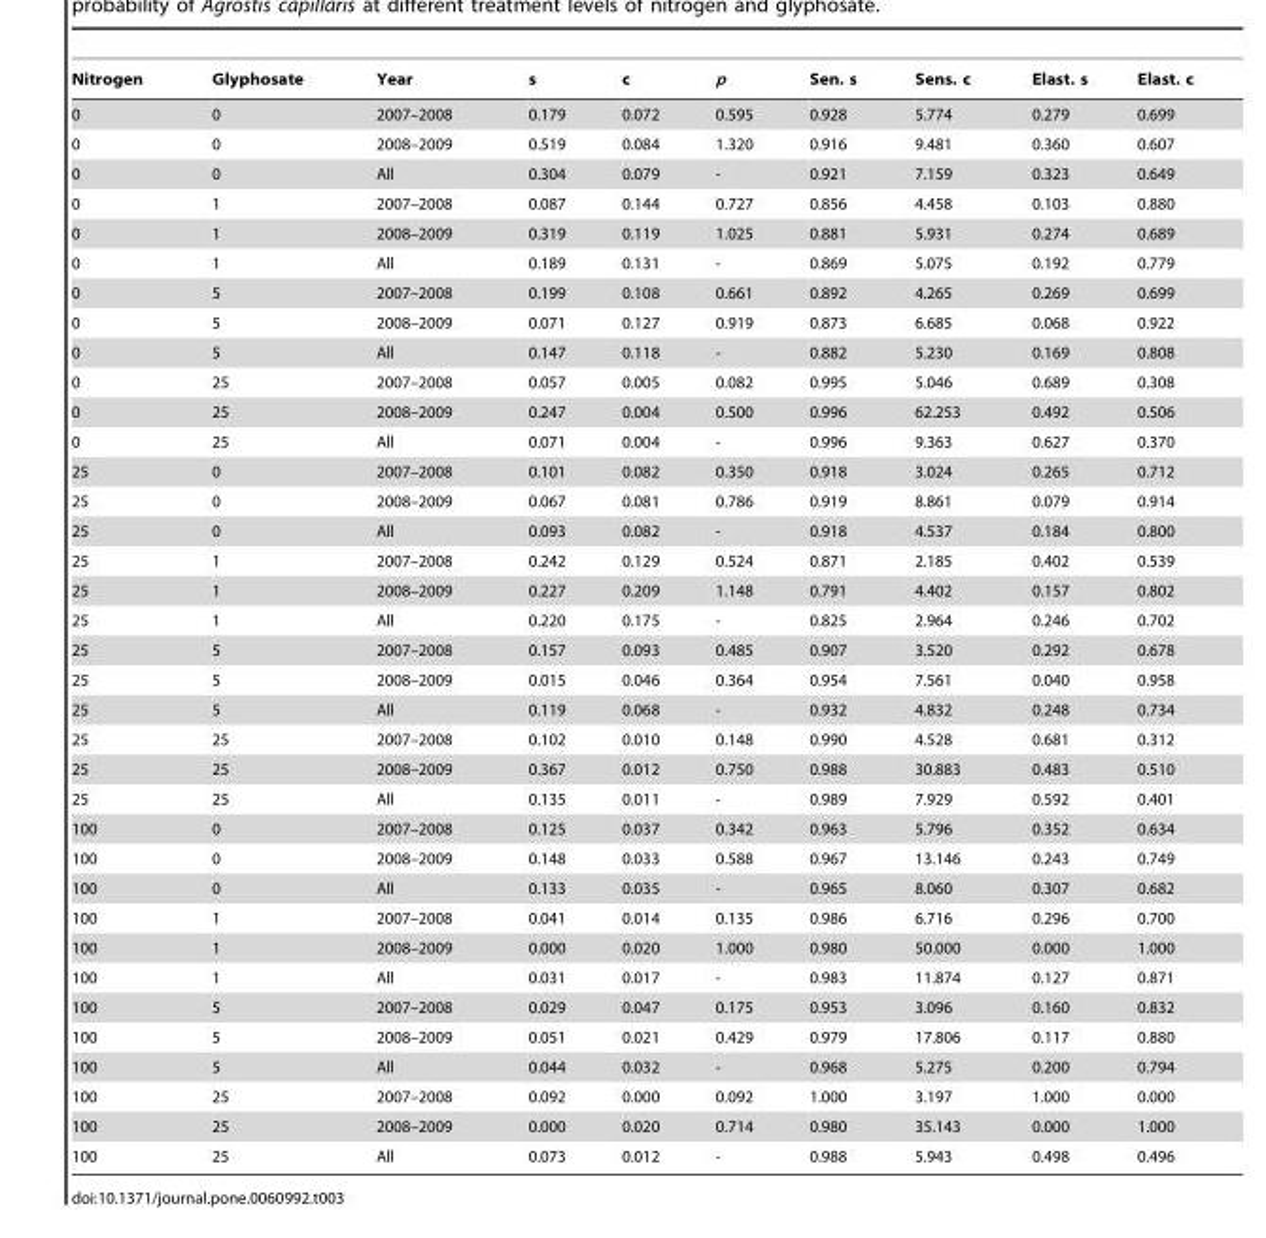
<table><thead><tr><td>Nitrogen</td><td>Glyphosate</td><td>Year</td><td>s</td><td>c</td><td>p</td><td>Sen. s</td><td>Sens. c</td><td>Elast. s</td><td>Elast. c</td></tr></thead><tbody><tr><td>0</td><td>0</td><td>2007–2008</td><td>0.179</td><td>0.072</td><td>0.595</td><td>0.928</td><td>5.774</td><td>0.279</td><td>0.699</td></tr><tr><td>0</td><td>0</td><td>2008–2009</td><td>0.519</td><td>0.084</td><td>1.320</td><td>0.916</td><td>9.481</td><td>0.360</td><td>0.607</td></tr><tr><td>0</td><td>0</td><td>All</td><td>0.304</td><td>0.079</td><td>-</td><td>0.921</td><td>7.159</td><td>0.323</td><td>0.649</td></tr><tr><td>0</td><td>1</td><td>2007–2008</td><td>0.087</td><td>0.144</td><td>0.727</td><td>0.856</td><td>4.458</td><td>0.103</td><td>0.880</td></tr><tr><td>0</td><td>1</td><td>2008–2009</td><td>0.319</td><td>0.119</td><td>1.025</td><td>0.881</td><td>5.931</td><td>0.274</td><td>0.689</td></tr><tr><td>0</td><td>1</td><td>All</td><td>0.189</td><td>0.131</td><td>-</td><td>0.869</td><td>5.075</td><td>0.192</td><td>0.779</td></tr><tr><td>0</td><td>5</td><td>2007–2008</td><td>0.199</td><td>0.108</td><td>0.661</td><td>0.892</td><td>4.265</td><td>0.269</td><td>0.699</td></tr><tr><td>0</td><td>5</td><td>2008–2009</td><td>0.071</td><td>0.127</td><td>0.919</td><td>0.873</td><td>6.685</td><td>0.068</td><td>0.922</td></tr><tr><td>0</td><td>5</td><td>All</td><td>0.147</td><td>0.118</td><td>-</td><td>0.882</td><td>5.230</td><td>0.169</td><td>0.808</td></tr><tr><td>0</td><td>25</td><td>2007–2008</td><td>0.057</td><td>0.005</td><td>0.082</td><td>0.995</td><td>5.046</td><td>0.689</td><td>0.308</td></tr><tr><td>0</td><td>25</td><td>2008–2009</td><td>0.247</td><td>0.004</td><td>0.500</td><td>0.996</td><td>62.253</td><td>0.492</td><td>0.506</td></tr><tr><td>0</td><td>25</td><td>All</td><td>0.071</td><td>0.004</td><td>-</td><td>0.996</td><td>9.363</td><td>0.627</td><td>0.370</td></tr><tr><td>25</td><td>0</td><td>2007–2008</td><td>0.101</td><td>0.082</td><td>0.350</td><td>0.918</td><td>3.024</td><td>0.265</td><td>0.712</td></tr><tr><td>25</td><td>0</td><td>2008–2009</td><td>0.067</td><td>0.081</td><td>0.786</td><td>0.919</td><td>8.861</td><td>0.079</td><td>0.914</td></tr><tr><td>25</td><td>0</td><td>All</td><td>0.093</td><td>0.082</td><td>-</td><td>0.918</td><td>4.537</td><td>0.184</td><td>0.800</td></tr><tr><td>25</td><td>1</td><td>2007–2008</td><td>0.242</td><td>0.129</td><td>0.524</td><td>0.871</td><td>2.185</td><td>0.402</td><td>0.539</td></tr><tr><td>25</td><td>1</td><td>2008–2009</td><td>0.227</td><td>0.209</td><td>1.148</td><td>0.791</td><td>4.402</td><td>0.157</td><td>0.802</td></tr><tr><td>25</td><td>1</td><td>All</td><td>0.220</td><td>0.175</td><td>-</td><td>0.825</td><td>2.964</td><td>0.246</td><td>0.702</td></tr><tr><td>25</td><td>5</td><td>2007–2008</td><td>0.157</td><td>0.093</td><td>0.485</td><td>0.907</td><td>3.520</td><td>0.292</td><td>0.678</td></tr><tr><td>25</td><td>5</td><td>2008–2009</td><td>0.015</td><td>0.046</td><td>0.364</td><td>0.954</td><td>7.561</td><td>0.040</td><td>0.958</td></tr><tr><td>25</td><td>5</td><td>All</td><td>0.119</td><td>0.068</td><td>-</td><td>0.932</td><td>4.832</td><td>0.248</td><td>0.734</td></tr><tr><td>25</td><td>25</td><td>2007–2008</td><td>0.102</td><td>0.010</td><td>0.148</td><td>0.990</td><td>4.528</td><td>0.681</td><td>0.312</td></tr><tr><td>25</td><td>25</td><td>2008–2009</td><td>0.367</td><td>0.012</td><td>0.750</td><td>0.988</td><td>30.883</td><td>0.483</td><td>0.510</td></tr><tr><td>25</td><td>25</td><td>All</td><td>0.135</td><td>0.011</td><td>-</td><td>0.989</td><td>7.929</td><td>0.592</td><td>0.401</td></tr><tr><td>100</td><td>0</td><td>2007–2008</td><td>0.125</td><td>0.037</td><td>0.342</td><td>0.963</td><td>5.796</td><td>0.352</td><td>0.634</td></tr><tr><td>100</td><td>0</td><td>2008–2009</td><td>0.148</td><td>0.033</td><td>0.588</td><td>0.967</td><td>13.146</td><td>0.243</td><td>0.749</td></tr><tr><td>100</td><td>0</td><td>All</td><td>0.133</td><td>0.035</td><td>-</td><td>0.965</td><td>8.060</td><td>0.307</td><td>0.682</td></tr><tr><td>100</td><td>1</td><td>2007–2008</td><td>0.041</td><td>0.014</td><td>0.135</td><td>0.986</td><td>6.716</td><td>0.296</td><td>0.700</td></tr><tr><td>100</td><td>1</td><td>2008–2009</td><td>0.000</td><td>0.020</td><td>1.000</td><td>0.980</td><td>50.000</td><td>0.000</td><td>1.000</td></tr><tr><td>100</td><td>1</td><td>All</td><td>0.031</td><td>0.017</td><td>-</td><td>0.983</td><td>11.874</td><td>0.127</td><td>0.871</td></tr><tr><td>100</td><td>5</td><td>2007–2008</td><td>0.029</td><td>0.047</td><td>0.175</td><td>0.953</td><td>3.096</td><td>0.160</td><td>0.832</td></tr><tr><td>100</td><td>5</td><td>2008–2009</td><td>0.051</td><td>0.021</td><td>0.429</td><td>0.979</td><td>17.806</td><td>0.117</td><td>0.880</td></tr><tr><td>100</td><td>5</td><td>All</td><td>0.044</td><td>0.032</td><td>-</td><td>0.968</td><td>5.275</td><td>0.200</td><td>0.794</td></tr><tr><td>100</td><td>25</td><td>2007–2008</td><td>0.092</td><td>0.000</td><td>0.092</td><td>1.000</td><td>3.197</td><td>1.000</td><td>0.000</td></tr><tr><td>100</td><td>25</td><td>2008–2009</td><td>0.000</td><td>0.020</td><td>0.714</td><td>0.980</td><td>35.143</td><td>0.000</td><td>1.000</td></tr><tr><td>100</td><td>25</td><td>All</td><td>0.073</td><td>0.012</td><td>-</td><td>0.988</td><td>5.943</td><td>0.498</td><td>0.496</td></tr></tbody></table>